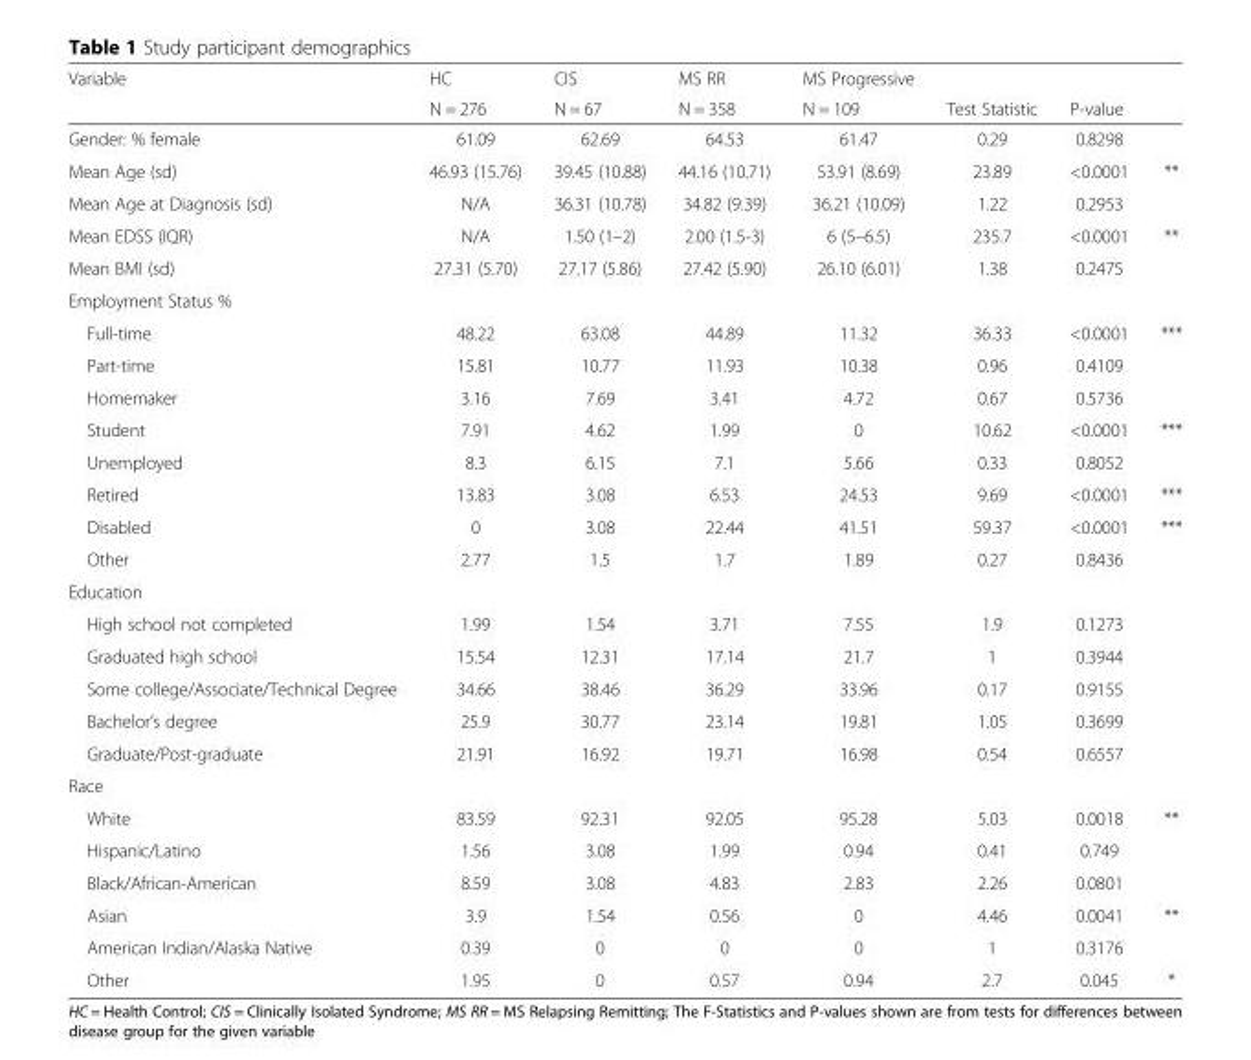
<table><thead><tr><td rowspan="2">Variable</td><td rowspan="2">HC N = 276</td><td rowspan="2">CIS N = 67</td><td rowspan="2">MS RR N = 358</td><td rowspan="2">MS Progressive N = 109</td><td rowspan="2">Test Statistic</td><td rowspan="2">P-value</td><td rowspan="2"></td></tr><tr></tr></thead><tbody><tr><td>Gender: % female</td><td>61.09</td><td>62.69</td><td>64.53</td><td>61.47</td><td>0.29</td><td>0.8298</td><td></td></tr><tr><td>Mean Age (sd)</td><td>46.93 (15.76)</td><td>39.45 (10.88)</td><td>44.16 (10.71)</td><td>53.91 (8.69)</td><td>23.89</td><td>&lt;0.0001</td><td>**</td></tr><tr><td>Mean Age at Diagnosis (sd)</td><td>N/A</td><td>36.31 (10.78)</td><td>34.82 (9.39)</td><td>36.21 (10.09)</td><td>1.22</td><td>0.2953</td><td></td></tr><tr><td>Mean EDSS (IQR)</td><td>N/A</td><td>1.50 (1–2)</td><td>2.00 (1.5-3)</td><td>6 (5–6.5)</td><td>235.7</td><td>&lt;0.0001</td><td>**</td></tr><tr><td>Mean BMI (sd)</td><td>27.31 (5.70)</td><td>27.17 (5.86)</td><td>27.42 (5.90)</td><td>26.10 (6.01)</td><td>1.38</td><td>0.2475</td><td></td></tr><tr><td colspan="8">Employment Status %</td></tr><tr><td>Full-time</td><td>48.22</td><td>63.08</td><td>44.89</td><td>11.32</td><td>36.33</td><td>&lt;0.0001</td><td>***</td></tr><tr><td>Part-time</td><td>15.81</td><td>10.77</td><td>11.93</td><td>10.38</td><td>0.96</td><td>0.4109</td><td></td></tr><tr><td>Homemaker</td><td>3.16</td><td>7.69</td><td>3.41</td><td>4.72</td><td>0.67</td><td>0.5736</td><td></td></tr><tr><td>Student</td><td>7.91</td><td>4.62</td><td>1.99</td><td>0</td><td>10.62</td><td>&lt;0.0001</td><td>***</td></tr><tr><td>Unemployed</td><td>8.3</td><td>6.15</td><td>7.1</td><td>5.66</td><td>0.33</td><td>0.8052</td><td></td></tr><tr><td>Retired</td><td>13.83</td><td>3.08</td><td>6.53</td><td>24.53</td><td>9.69</td><td>&lt;0.0001</td><td>***</td></tr><tr><td>Disabled</td><td>0</td><td>3.08</td><td>22.44</td><td>41.51</td><td>59.37</td><td>&lt;0.0001</td><td>***</td></tr><tr><td>Other</td><td>2.77</td><td>1.5</td><td>1.7</td><td>1.89</td><td>0.27</td><td>0.8436</td><td></td></tr><tr><td colspan="8">Education</td></tr><tr><td>High school not completed</td><td>1.99</td><td>1.54</td><td>3.71</td><td>7.55</td><td>1.9</td><td>0.1273</td><td></td></tr><tr><td>Graduated high school</td><td>15.54</td><td>12.31</td><td>17.14</td><td>21.7</td><td>1</td><td>0.3944</td><td></td></tr><tr><td>Some college/Associate/Technical Degree</td><td>34.66</td><td>38.46</td><td>36.29</td><td>33.96</td><td>0.17</td><td>0.9155</td><td></td></tr><tr><td>Bachelor’s degree</td><td>25.9</td><td>30.77</td><td>23.14</td><td>19.81</td><td>1.05</td><td>0.3699</td><td></td></tr><tr><td>Graduate/Post-graduate</td><td>21.91</td><td>16.92</td><td>19.71</td><td>16.98</td><td>0.54</td><td>0.6557</td><td></td></tr><tr><td colspan="8">Race</td></tr><tr><td>White</td><td>83.59</td><td>92.31</td><td>92.05</td><td>95.28</td><td>5.03</td><td>0.0018</td><td>**</td></tr><tr><td>Hispanic/Latino</td><td>1.56</td><td>3.08</td><td>1.99</td><td>0.94</td><td>0.41</td><td>0.749</td><td></td></tr><tr><td>Black/African-American</td><td>8.59</td><td>3.08</td><td>4.83</td><td>2.83</td><td>2.26</td><td>0.0801</td><td></td></tr><tr><td>Asian</td><td>3.9</td><td>1.54</td><td>0.56</td><td>0</td><td>4.46</td><td>0.0041</td><td>**</td></tr><tr><td>American Indian/Alaska Native</td><td>0.39</td><td>0</td><td>0</td><td>0</td><td>1</td><td>0.3176</td><td></td></tr><tr><td>Other</td><td>1.95</td><td>0</td><td>0.57</td><td>0.94</td><td>2.7</td><td>0.045</td><td>*</td></tr></tbody></table>